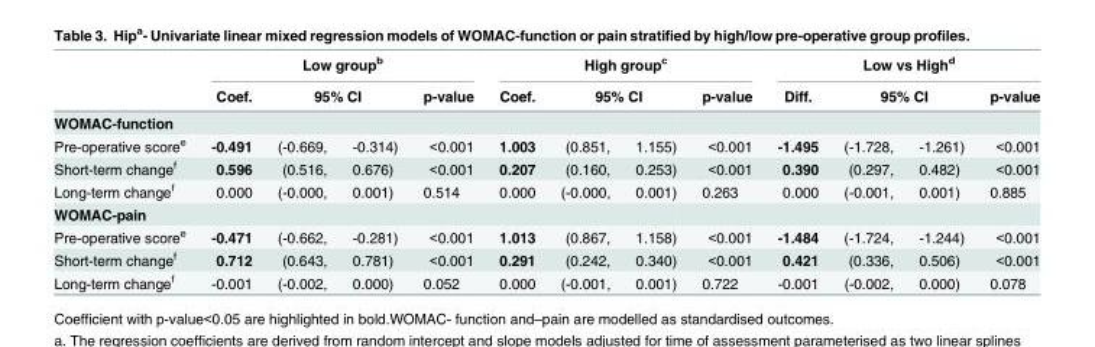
<table><thead><tr><td rowspan="3">WOMAC-function</td><td colspan="4">Low group<sup>b</sup></td><td colspan="4">High group<sup>c</sup></td><td colspan="4">Low vs High<sup>d</sup></td></tr><tr><td rowspan="2">Coef.</td><td colspan="2">95% CI</td><td rowspan="2">p-value</td><td rowspan="2">Coef.</td><td colspan="2">95% CI</td><td rowspan="2">p-value</td><td rowspan="2">Diff.</td><td colspan="2">95% CI</td><td rowspan="2">p-value</td></tr><tr><td></td><td></td><td></td><td></td><td></td><td></td></tr></thead><tbody><tr><td>Pre-operative score<sup>e</sup></td><td>-0.491</td><td>(-0.669,</td><td>-0.314)</td><td>&lt;0.001</td><td>1.003</td><td>(0.851,</td><td>1.155)</td><td>&lt;0.001</td><td>-1.495</td><td>(-1.728,</td><td>-1.261)</td><td>&lt;0.001</td></tr><tr><td>Short-term change<sup>f</sup></td><td>0.596</td><td>(0.516,</td><td>0.676)</td><td>&lt;0.001</td><td>0.207</td><td>(0.160,</td><td>0.253)</td><td>&lt;0.001</td><td>0.390</td><td>(0.297,</td><td>0.482)</td><td>&lt;0.001</td></tr><tr><td>Long-term change<sup>f</sup></td><td>0.000</td><td>(-0.000,</td><td>0.001)</td><td>0.514</td><td>0.000</td><td>(-0.000,</td><td>0.001)</td><td>0.263</td><td>0.000</td><td>(-0.001,</td><td>0.001)</td><td>0.885</td></tr><tr><td colspan="13">WOMAC-pain</td></tr><tr><td>Pre-operative score<sup>e</sup></td><td>-0.471</td><td>(-0.662,</td><td>-0.281)</td><td>&lt;0.001</td><td>1.013</td><td>(0.867,</td><td>1.158)</td><td>&lt;0.001</td><td>-1.484</td><td>(-1.724,</td><td>-1.244)</td><td>&lt;0.001</td></tr><tr><td>Short-term change<sup>f</sup></td><td>0.712</td><td>(0.643,</td><td>0.781)</td><td>&lt;0.001</td><td>0.291</td><td>(0.242,</td><td>0.340)</td><td>&lt;0.001</td><td>0.421</td><td>(0.336,</td><td>0.506)</td><td>&lt;0.001</td></tr><tr><td>Long-term change<sup>f</sup></td><td>-0.001</td><td>(-0.002,</td><td>0.000)</td><td>0.052</td><td>0.000</td><td>(-0.001,</td><td>0.001)</td><td>0.722</td><td>-0.001</td><td>(-0.002,</td><td>0.000)</td><td>0.078</td></tr></tbody></table>